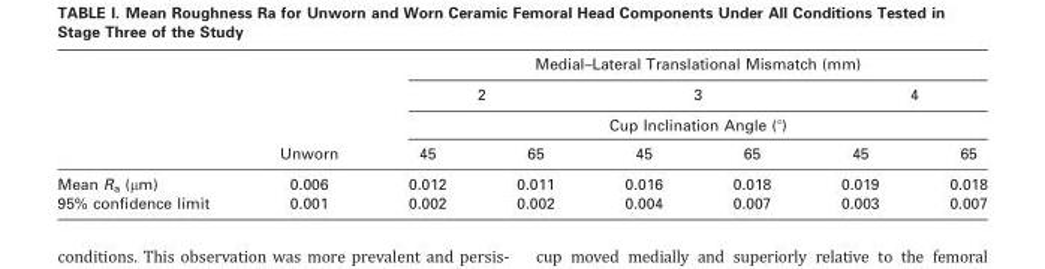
<table><thead><tr><td rowspan="4"></td><td rowspan="4">Unworn</td><td colspan="6">Medial–Lateral Translational Mismatch (mm)</td></tr><tr><td colspan="2">2</td><td colspan="2">3</td><td colspan="2">4</td></tr><tr><td colspan="6">Cup Inclination Angle (°)</td></tr><tr><td>45</td><td>65</td><td>45</td><td>65</td><td>45</td><td>65</td></tr></thead><tbody><tr><td>Mean R<sub>a</sub> (µm)</td><td>0.006</td><td>0.012</td><td>0.011</td><td>0.016</td><td>0.018</td><td>0.019</td><td>0.018</td></tr><tr><td>95% confidence limit</td><td>0.001</td><td>0.002</td><td>0.002</td><td>0.004</td><td>0.007</td><td>0.003</td><td>0.007</td></tr></tbody></table>